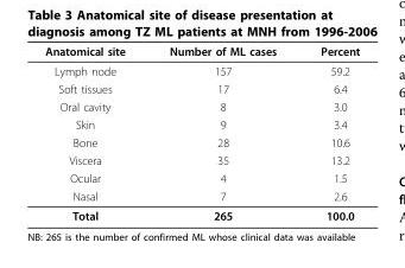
<table><thead><tr><td>Anatomical site</td><td>Number of ML cases</td><td>Percent</td></tr></thead><tbody><tr><td>Lymph node</td><td>157</td><td>59.2</td></tr><tr><td>Soft tissues</td><td>17</td><td>6.4</td></tr><tr><td>Oral cavity</td><td>8</td><td>3.0</td></tr><tr><td>Skin</td><td>9</td><td>3.4</td></tr><tr><td>Bone</td><td>28</td><td>10.6</td></tr><tr><td>Viscera</td><td>35</td><td>13.2</td></tr><tr><td>Ocular</td><td>4</td><td>1.5</td></tr><tr><td>Nasal</td><td>7</td><td>2.6</td></tr><tr><td>Total</td><td>265</td><td>100.0</td></tr></tbody></table>